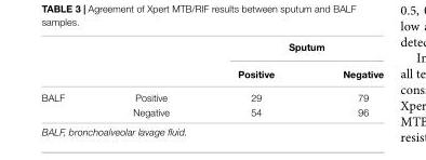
<table><thead><tr><td rowspan="2"></td><td rowspan="2"></td><td colspan="2">Sputum</td></tr><tr><td>Positive</td><td>Negative</td></tr></thead><tbody><tr><td rowspan="2">BALF</td><td>Positive</td><td>29</td><td>79</td></tr><tr><td>Negative</td><td>54</td><td>96</td></tr></tbody></table>